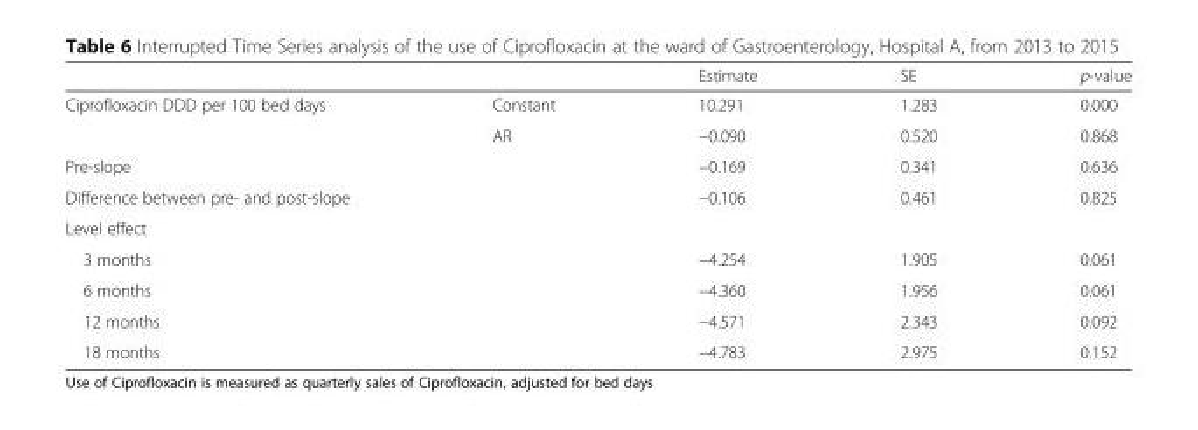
<table><thead><tr><td></td><td></td><td>Estimate</td><td>SE</td><td>p-value</td></tr></thead><tbody><tr><td rowspan="2">Ciprofloxacin DDD per 100 bed days</td><td>Constant</td><td>10.291</td><td>1.283</td><td>0.000</td></tr><tr><td>AR</td><td>−0.090</td><td>0.520</td><td>0.868</td></tr><tr><td>Pre-slope</td><td></td><td>−0.169</td><td>0.341</td><td>0.636</td></tr><tr><td>Difference between pre- and post-slope</td><td></td><td>−0.106</td><td>0.461</td><td>0.825</td></tr><tr><td colspan="5">Level effect</td></tr><tr><td>3 months</td><td></td><td>−4.254</td><td>1.905</td><td>0.061</td></tr><tr><td>6 months</td><td></td><td>−4.360</td><td>1.956</td><td>0.061</td></tr><tr><td>12 months</td><td></td><td>−4.571</td><td>2.343</td><td>0.092</td></tr><tr><td>18 months</td><td></td><td>−4.783</td><td>2.975</td><td>0.152</td></tr></tbody></table>